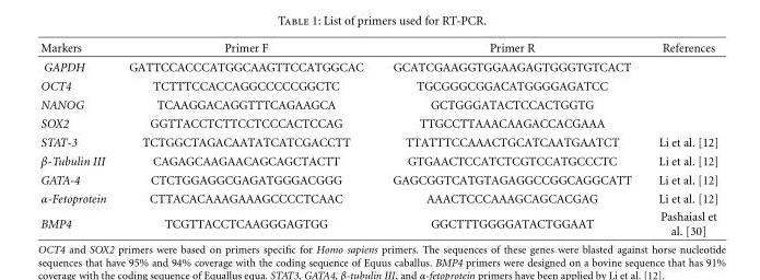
<table><thead><tr><td>Markers</td><td>Primer F</td><td>Primer R</td><td>References</td></tr></thead><tbody><tr><td>GAPDH</td><td>GATTCCACCCATGGCAAGTTCCATGGCAC</td><td>GCATCGAAGGTGGAAGAGTGGGTGTCACT</td><td></td></tr><tr><td>OCT4</td><td>TCTTTCCACCAGGCCCCCGGCTC</td><td>TGCGGGCGGACATGGGGAGATCC</td><td></td></tr><tr><td>NANOG</td><td>TCAAGGACAGGTTTCAGAAGCA</td><td>GCTGGGATACTCCACTGGTG</td><td></td></tr><tr><td>SOX2</td><td>GGTTACCTCTTCCTCCCACTCCAG</td><td>TTGCCTTAAACAAGACCACGAAA</td><td></td></tr><tr><td>STAT-3</td><td>TCTGGCTAGACAATATCATCGACCTT</td><td>TTATTTCCAAACTGCATCAATGAATCT</td><td>Li et al. [12]</td></tr><tr><td>β-Tubulin III</td><td>CAGAGCAAGAACAGCAGCTACTT</td><td>GTGAACTCCATCTCGTCCATGCCCTC</td><td>Li et al. [12]</td></tr><tr><td>GATA-4</td><td>CTCTGGAGGCGAGATGGGACGGG</td><td>GAGCGGTCATGTAGAGGCCGGCAGGCATT</td><td>Li et al. [12]</td></tr><tr><td>α-Fetoprotein</td><td>CTTACACAAAGAAAGCCCCTCAAC</td><td>AAACTCCCAAAGCAGCACGAG</td><td>Li et al. [12]</td></tr><tr><td>BMP4</td><td>TCGTTACCTCAAGGGAGTGG</td><td>GGCTTTGGGGATACTGGAAT</td><td>Pashaiasl et al. [30]</td></tr></tbody></table>